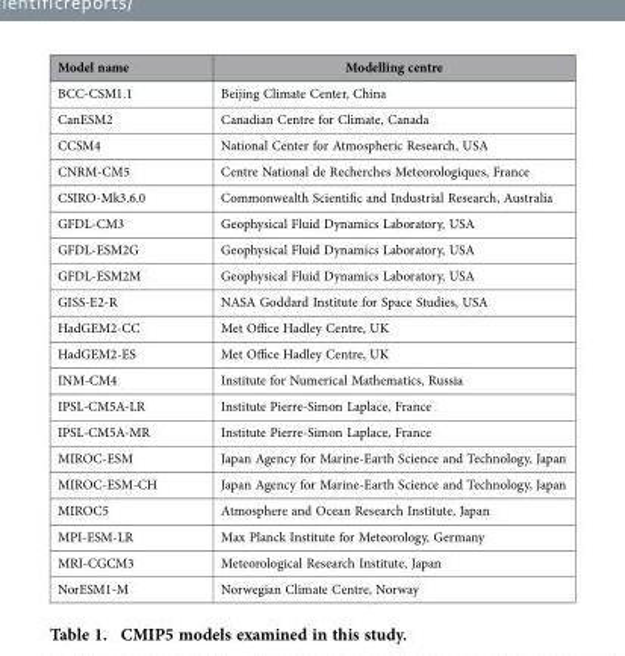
<table><thead><tr><td>Model name</td><td>Modelling centre</td></tr></thead><tbody><tr><td>BCC-CSM1.1</td><td>Beijing Climate Center, China</td></tr><tr><td>CanESM2</td><td>Canadian Centre for Climate, Canada</td></tr><tr><td>CCSM4</td><td>National Center for Atmospheric Research, USA</td></tr><tr><td>CNRM-CM5</td><td>Centre National de Recherches Meteorologiques, France</td></tr><tr><td>CSIRO-Mk3.6.0</td><td>Commonwealth Scientific and Industrial Research, Australia</td></tr><tr><td>GFDL-CM3</td><td>Geophysical Fluid Dynamics Laboratory, USA</td></tr><tr><td>GFDL-ESM2G</td><td>Geophysical Fluid Dynamics Laboratory, USA</td></tr><tr><td>GFDL-ESM2M</td><td>Geophysical Fluid Dynamics Laboratory, USA</td></tr><tr><td>GISS-E2-R</td><td>NASA Goddard Institute for Space Studies, USA</td></tr><tr><td>HadGEM2-CC</td><td>Met Office Hadley Centre, UK</td></tr><tr><td>HadGEM2-ES</td><td>Met Office Hadley Centre, UK</td></tr><tr><td>INM-CM4</td><td>Institute for Numerical Mathematics, Russia</td></tr><tr><td>IPSL-CM5A-LR</td><td>Institute Pierre-Simon Laplace, France</td></tr><tr><td>IPSL-CM5A-MR</td><td>Institute Pierre-Simon Laplace, France</td></tr><tr><td>MIROC-ESM</td><td>Japan Agency for Marine-Earth Science and Technology, Japan</td></tr><tr><td>MIROC-ESM-CH</td><td>Japan Agency for Marine-Earth Science and Technology, Japan</td></tr><tr><td>MIROC5</td><td>Atmosphere and Ocean Research Institute, Japan</td></tr><tr><td>MPI-ESM-LR</td><td>Max Planck Institute for Meteorology, Germany</td></tr><tr><td>MRI-CGCM3</td><td>Meteorological Research Institute, Japan</td></tr><tr><td>NorESM1-M</td><td>Norwegian Climate Centre, Norway</td></tr></tbody></table>